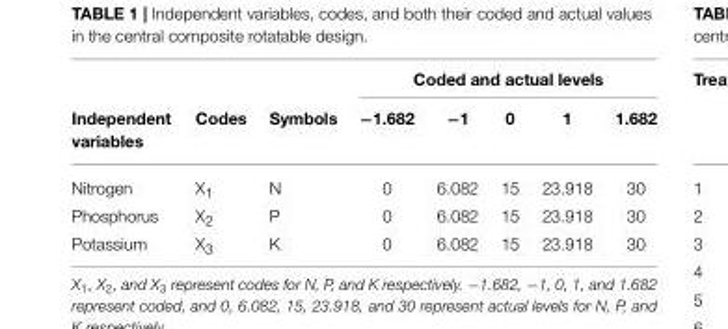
<table><thead><tr><td rowspan="2">Independent variables</td><td rowspan="2">Codes</td><td rowspan="2">Symbols</td><td colspan="5">Coded and actual levels</td></tr><tr><td>−1.682</td><td>−1</td><td>0</td><td>1</td><td>1.682</td></tr></thead><tbody><tr><td>Nitrogen</td><td>X<sub>1</sub></td><td>N</td><td>0</td><td>6.082</td><td>15</td><td>23.918</td><td>30</td></tr><tr><td>Phosphorus</td><td>X<sub>2</sub></td><td>P</td><td>0</td><td>6.082</td><td>15</td><td>23.918</td><td>30</td></tr><tr><td>Potassium</td><td>X<sub>3</sub></td><td>K</td><td>0</td><td>6.082</td><td>15</td><td>23.918</td><td>30</td></tr></tbody></table>